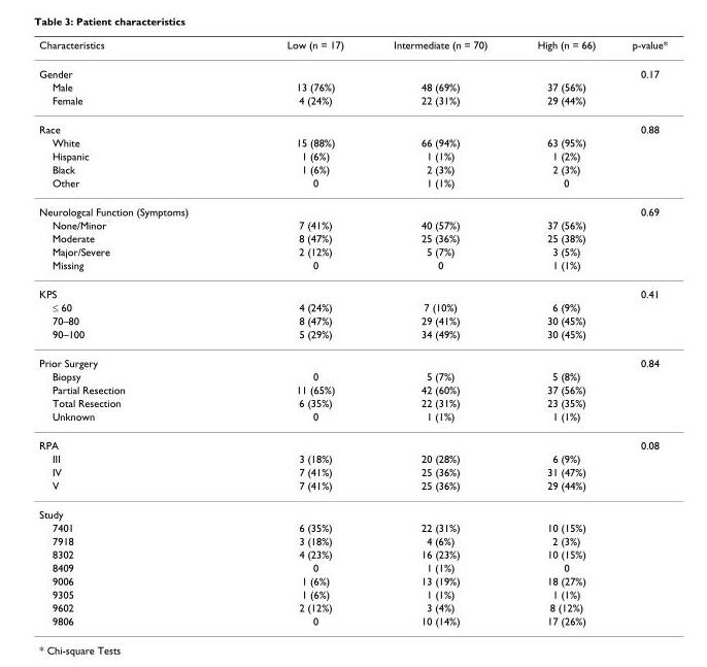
<table><thead><tr><td>Characteristics</td><td>Low (n = 17)</td><td>Intermediate (n = 70)</td><td>High (n = 66)</td><td>p-value*</td></tr></thead><tbody><tr><td>Gender</td><td></td><td></td><td></td><td>0.17</td></tr><tr><td>Male</td><td>13 (76%)</td><td>48 (69%)</td><td>37 (56%)</td><td></td></tr><tr><td>Female</td><td>4 (24%)</td><td>22 (31%)</td><td>29 (44%)</td><td></td></tr><tr><td>Race</td><td></td><td></td><td></td><td>0.88</td></tr><tr><td>White</td><td>15 (88%)</td><td>66 (94%)</td><td>63 (95%)</td><td></td></tr><tr><td>Hispanic</td><td>1 (6%)</td><td>1 (1%)</td><td>1 (2%)</td><td></td></tr><tr><td>Black</td><td>1 (6%)</td><td>2 (3%)</td><td>2 (3%)</td><td></td></tr><tr><td>Other</td><td>0</td><td>1 (1%)</td><td>0</td><td></td></tr><tr><td>Neurologcal Function (Symptoms)</td><td></td><td></td><td></td><td>0.69</td></tr><tr><td>None/Minor</td><td>7 (41%)</td><td>40 (57%)</td><td>37 (56%)</td><td></td></tr><tr><td>Moderate</td><td>8 (47%)</td><td>25 (36%)</td><td>25 (38%)</td><td></td></tr><tr><td>Major/Severe</td><td>2 (12%)</td><td>5 (7%)</td><td>3 (5%)</td><td></td></tr><tr><td>Missing</td><td>0</td><td>0</td><td>1 (1%)</td><td></td></tr><tr><td>KPS</td><td></td><td></td><td></td><td>0.41</td></tr><tr><td>≤ 60</td><td>4 (24%)</td><td>7 (10%)</td><td>6 (9%)</td><td></td></tr><tr><td>70–80</td><td>8 (47%)</td><td>29 (41%)</td><td>30 (45%)</td><td></td></tr><tr><td>90–100</td><td>5 (29%)</td><td>34 (49%)</td><td>30 (45%)</td><td></td></tr><tr><td>Prior Surgery</td><td></td><td></td><td></td><td>0.84</td></tr><tr><td>Biopsy</td><td>0</td><td>5 (7%)</td><td>5 (8%)</td><td></td></tr><tr><td>Partial Resection</td><td>11 (65%)</td><td>42 (60%)</td><td>37 (56%)</td><td></td></tr><tr><td>Total Resection</td><td>6 (35%)</td><td>22 (31%)</td><td>23 (35%)</td><td></td></tr><tr><td>Unknown</td><td>0</td><td>1 (1%)</td><td>1 (1%)</td><td></td></tr><tr><td>RPA</td><td></td><td></td><td></td><td>0.08</td></tr><tr><td>III</td><td>3 (18%)</td><td>20 (28%)</td><td>6 (9%)</td><td></td></tr><tr><td>IV</td><td>7 (41%)</td><td>25 (36%)</td><td>31 (47%)</td><td></td></tr><tr><td>V</td><td>7 (41%)</td><td>25 (36%)</td><td>29 (44%)</td><td></td></tr><tr><td colspan="5">Study</td></tr><tr><td>7401</td><td>6 (35%)</td><td>22 (31%)</td><td>10 (15%)</td><td></td></tr><tr><td>7918</td><td>3 (18%)</td><td>4 (6%)</td><td>2 (3%)</td><td></td></tr><tr><td>8302</td><td>4 (23%)</td><td>16 (23%)</td><td>10 (15%)</td><td></td></tr><tr><td>8409</td><td>0</td><td>1 (1%)</td><td>0</td><td></td></tr><tr><td>9006</td><td>1 (6%)</td><td>13 (19%)</td><td>18 (27%)</td><td></td></tr><tr><td>9305</td><td>1 (6%)</td><td>1 (1%)</td><td>1 (1%)</td><td></td></tr><tr><td>9602</td><td>2 (12%)</td><td>3 (4%)</td><td>8 (12%)</td><td></td></tr><tr><td>9806</td><td>0</td><td>10 (14%)</td><td>17 (26%)</td><td></td></tr></tbody></table>